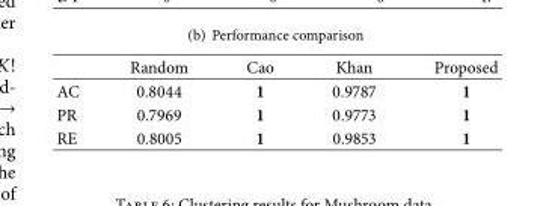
<table><thead><tr><td></td><td>Random</td><td>Cao</td><td>Khan</td><td>Proposed</td></tr></thead><tbody><tr><td>AC</td><td>0.8044</td><td>1</td><td>0.9787</td><td>1</td></tr><tr><td>PR</td><td>0.7969</td><td>1</td><td>0.9773</td><td>1</td></tr><tr><td>RE</td><td>0.8005</td><td>1</td><td>0.9853</td><td>1</td></tr></tbody></table>